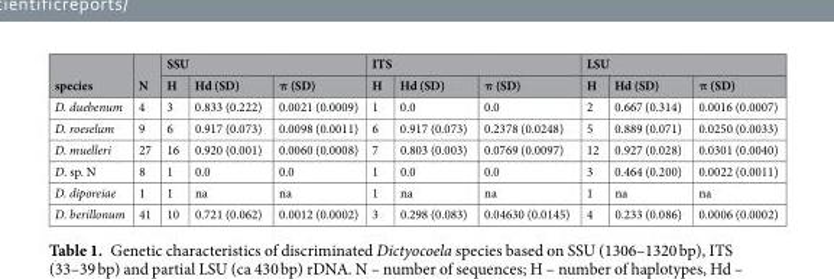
<table><thead><tr><td rowspan="2">species</td><td rowspan="2">N</td><td colspan="3">SSU</td><td colspan="3">ITS</td><td colspan="3">LSU</td></tr><tr><td>H</td><td>Hd (SD)</td><td>π (SD)</td><td>H</td><td>Hd (SD)</td><td>π (SD)</td><td>H</td><td>Hd (SD)</td><td>π (SD)</td></tr></thead><tbody><tr><td>D. duebenum</td><td>4</td><td>3</td><td>0.833 (0.222)</td><td>0.0021 (0.0009)</td><td>1</td><td>0.0</td><td>0.0</td><td>2</td><td>0.667 (0.314)</td><td>0.0016 (0.0007)</td></tr><tr><td>D. roeselum</td><td>9</td><td>6</td><td>0.917 (0.073)</td><td>0.0098 (0.0011)</td><td>6</td><td>0.917 (0.073)</td><td>0.2378 (0.0248)</td><td>5</td><td>0.889 (0.071)</td><td>0.0250 (0.0033)</td></tr><tr><td>D. muelleri</td><td>27</td><td>16</td><td>0.920 (0.001)</td><td>0.0060 (0.0008)</td><td>7</td><td>0.803 (0.003)</td><td>0.0769 (0.0097)</td><td>12</td><td>0.927 (0.028)</td><td>0.0301 (0.0040)</td></tr><tr><td>D. sp. N</td><td>8</td><td>1</td><td>0.0</td><td>0.0</td><td>1</td><td>0.0</td><td>0.0</td><td>3</td><td>0.464 (0.200)</td><td>0.0022 (0.0011)</td></tr><tr><td>D. diporeiae</td><td>1</td><td>1</td><td>na</td><td>na</td><td>1</td><td>na</td><td>na</td><td>1</td><td>na</td><td>na</td></tr><tr><td>D. berillonum</td><td>41</td><td>10</td><td>0.721 (0.062)</td><td>0.0012 (0.0002)</td><td>3</td><td>0.298 (0.083)</td><td>0.04630 (0.0145)</td><td>4</td><td>0.233 (0.086)</td><td>0.0006 (0.0002)</td></tr></tbody></table>